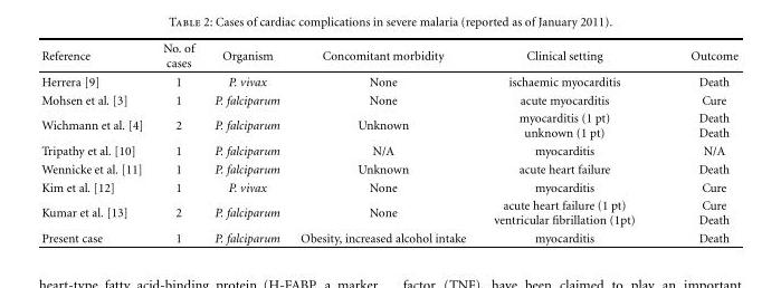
<table><thead><tr><td>Reference</td><td>No. of cases</td><td>Organism</td><td>Concomitant morbidity</td><td>Clinical setting</td><td>Outcome</td></tr></thead><tbody><tr><td>Herrera [9]</td><td>1</td><td>P. vivax</td><td>None</td><td>ischaemic myocarditis</td><td>Death</td></tr><tr><td>Mohsen et al. [3]</td><td>1</td><td>P. falciparum</td><td>None</td><td>acute myocarditis</td><td>Cure</td></tr><tr><td>Wichmann et al. [4]</td><td>2</td><td>P. falciparum</td><td>Unknown</td><td>myocarditis (1 pt) unknown (1 pt)</td><td>Death Death</td></tr><tr><td>Tripathy et al. [10]</td><td>1</td><td>P. falciparum</td><td>N/A</td><td>myocarditis</td><td>N/A</td></tr><tr><td>Wennicke et al. [11]</td><td>1</td><td>P. falciparum</td><td>Unknown</td><td>acute heart failure</td><td>Death</td></tr><tr><td>Kim et al. [12]</td><td>1</td><td>P. vivax</td><td>None</td><td>myocarditis</td><td>Cure</td></tr><tr><td>Kumar et al. [13]</td><td>2</td><td>P. falciparum</td><td>None</td><td>acute heart failure (1 pt) ventricular fibrillation (1pt)</td><td>Cure Death</td></tr><tr><td>Present case</td><td>1</td><td>P. falciparum</td><td>Obesity, increased alcohol intake</td><td>myocarditis</td><td>Death</td></tr></tbody></table>